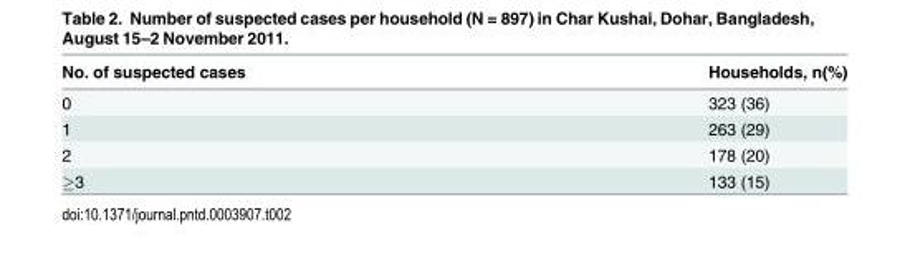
<table><thead><tr><td>No. of suspected cases</td><td>Households, n(%)</td></tr></thead><tbody><tr><td>0</td><td>323 (36)</td></tr><tr><td>1</td><td>263 (29)</td></tr><tr><td>2</td><td>178 (20)</td></tr><tr><td>≥3</td><td>133 (15)</td></tr></tbody></table>